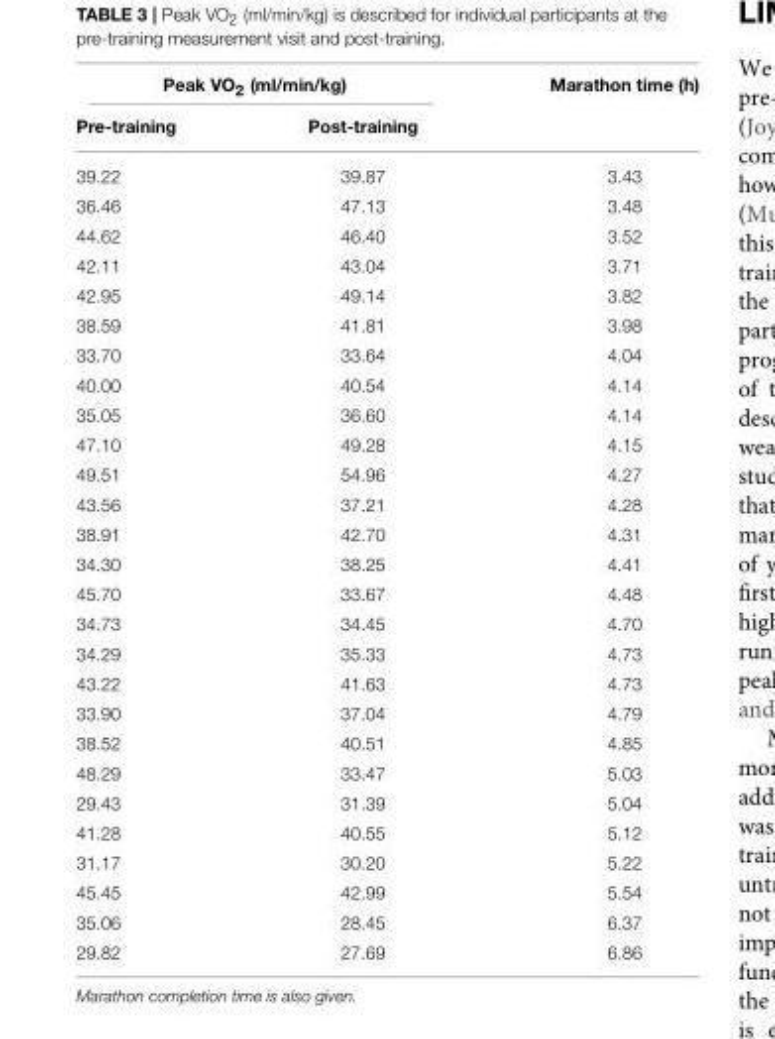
<table><thead><tr><td colspan="2">Peak VO<sub>2</sub> (ml/min/kg)</td><td rowspan="2">Marathon time (h)</td></tr><tr><td>Pre-training</td><td>Post-training</td></tr></thead><tbody><tr><td>39.22</td><td>39.87</td><td>3.43</td></tr><tr><td>36.46</td><td>47.13</td><td>3.48</td></tr><tr><td>44.62</td><td>46.40</td><td>3.52</td></tr><tr><td>42.11</td><td>43.04</td><td>3.71</td></tr><tr><td>42.95</td><td>49.14</td><td>3.82</td></tr><tr><td>38.59</td><td>41.81</td><td>3.98</td></tr><tr><td>33.70</td><td>33.64</td><td>4.04</td></tr><tr><td>40.00</td><td>40.54</td><td>4.14</td></tr><tr><td>35.05</td><td>36.60</td><td>4.14</td></tr><tr><td>47.10</td><td>49.28</td><td>4.15</td></tr><tr><td>49.51</td><td>54.96</td><td>4.27</td></tr><tr><td>43.56</td><td>37.21</td><td>4.28</td></tr><tr><td>38.91</td><td>42.70</td><td>4.31</td></tr><tr><td>34.30</td><td>38.25</td><td>4.41</td></tr><tr><td>45.70</td><td>33.67</td><td>4.48</td></tr><tr><td>34.73</td><td>34.45</td><td>4.70</td></tr><tr><td>34.29</td><td>35.33</td><td>4.73</td></tr><tr><td>43.22</td><td>41.63</td><td>4.73</td></tr><tr><td>33.90</td><td>37.04</td><td>4.79</td></tr><tr><td>38.52</td><td>40.51</td><td>4.85</td></tr><tr><td>48.29</td><td>33.47</td><td>5.03</td></tr><tr><td>29.43</td><td>31.39</td><td>5.04</td></tr><tr><td>41.28</td><td>40.55</td><td>5.12</td></tr><tr><td>31.17</td><td>30.20</td><td>5.22</td></tr><tr><td>45.45</td><td>42.99</td><td>5.54</td></tr><tr><td>35.06</td><td>28.45</td><td>6.37</td></tr><tr><td>29.82</td><td>27.69</td><td>6.86</td></tr></tbody></table>